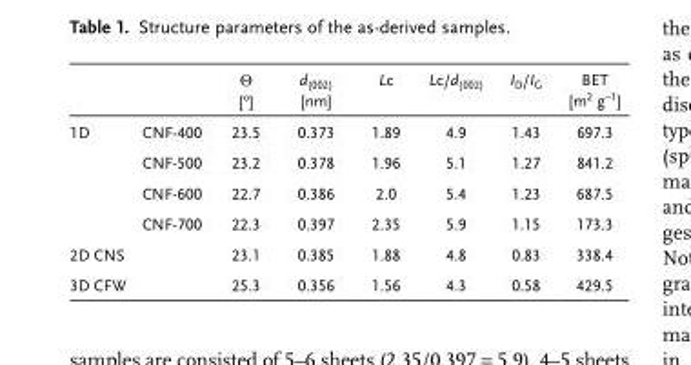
<table><thead><tr><td></td><td></td><td>Θ [<sup>o</sup>]</td><td>d<sub>(002)</sub> [nm]</td><td>L<sub>c</sub></td><td>L<sub>c</sub>/d<sub>(002)</sub></td><td>I<sub>D</sub>/I<sub>G</sub></td><td>BET [m<sup>2</sup> g<sup>−1</sup>]</td></tr></thead><tbody><tr><td rowspan="4">1D</td><td>CNF-400</td><td>23.5</td><td>0.373</td><td>1.89</td><td>4.9</td><td>1.43</td><td>697.3</td></tr><tr><td>CNF-500</td><td>23.2</td><td>0.378</td><td>1.96</td><td>5.1</td><td>1.27</td><td>841.2</td></tr><tr><td>CNF-600</td><td>22.7</td><td>0.386</td><td>2.0</td><td>5.4</td><td>1.23</td><td>687.5</td></tr><tr><td>CNF-700</td><td>22.3</td><td>0.397</td><td>2.35</td><td>5.9</td><td>1.15</td><td>173.3</td></tr><tr><td colspan="2">2D CNS</td><td>23.1</td><td>0.385</td><td>1.88</td><td>4.8</td><td>0.83</td><td>338.4</td></tr><tr><td colspan="2">3D CFW</td><td>25.3</td><td>0.356</td><td>1.56</td><td>4.3</td><td>0.58</td><td>429.5</td></tr></tbody></table>